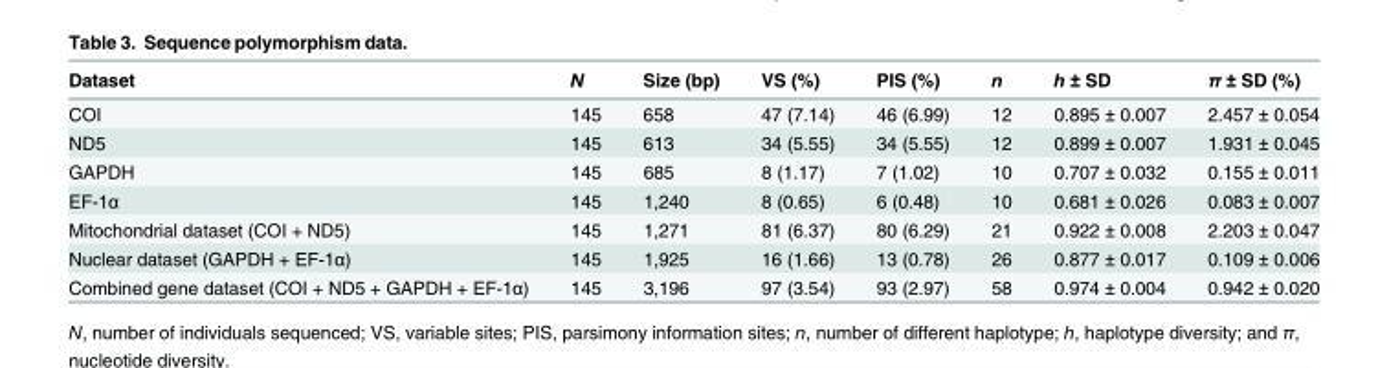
<table><thead><tr><td>Dataset</td><td>N</td><td>Size (bp)</td><td>VS (%)</td><td>PIS (%)</td><td>n</td><td>h ± SD</td><td>π ± SD (%)</td></tr></thead><tbody><tr><td>COI</td><td>145</td><td>658</td><td>47 (7.14)</td><td>46 (6.99)</td><td>12</td><td>0.895 ± 0.007</td><td>2.457 ± 0.054</td></tr><tr><td>ND5</td><td>145</td><td>613</td><td>34 (5.55)</td><td>34 (5.55)</td><td>12</td><td>0.899 ± 0.007</td><td>1.931 ± 0.045</td></tr><tr><td>GAPDH</td><td>145</td><td>685</td><td>8 (1.17)</td><td>7 (1.02)</td><td>10</td><td>0.707 ± 0.032</td><td>0.155 ± 0.011</td></tr><tr><td>EF-1α</td><td>145</td><td>1,240</td><td>8 (0.65)</td><td>6 (0.48)</td><td>10</td><td>0.681 ± 0.026</td><td>0.083 ± 0.007</td></tr><tr><td>Mitochondrial dataset (COI + ND5)</td><td>145</td><td>1,271</td><td>81 (6.37)</td><td>80 (6.29)</td><td>21</td><td>0.922 ± 0.008</td><td>2.203 ± 0.047</td></tr><tr><td>Nuclear dataset (GAPDH + EF-1α)</td><td>145</td><td>1,925</td><td>16 (1.66)</td><td>13 (0.78)</td><td>26</td><td>0.877 ± 0.017</td><td>0.109 ± 0.006</td></tr><tr><td>Combined gene dataset (COI + ND5 + GAPDH + EF-1α)</td><td>145</td><td>3,196</td><td>97 (3.54)</td><td>93 (2.97)</td><td>58</td><td>0.974 ± 0.004</td><td>0.942 ± 0.020</td></tr></tbody></table>